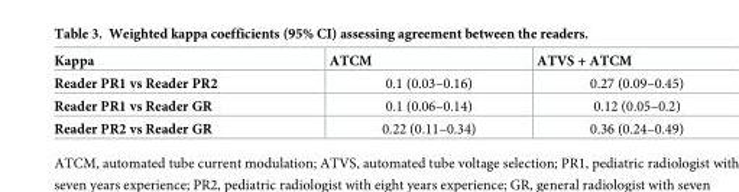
<table><thead><tr><td>Kappa</td><td>ATCM</td><td>ATVS + ATCM</td></tr></thead><tbody><tr><td>Reader PR1 vs Reader PR2</td><td>0.1 (0.03–0.16)</td><td>0.27 (0.09–0.45)</td></tr><tr><td>Reader PR1 vs Reader GR</td><td>0.1 (0.06–0.14)</td><td>0.12 (0.05–0.2)</td></tr><tr><td>Reader PR2 vs Reader GR</td><td>0.22 (0.11–0.34)</td><td>0.36 (0.24–0.49)</td></tr></tbody></table>